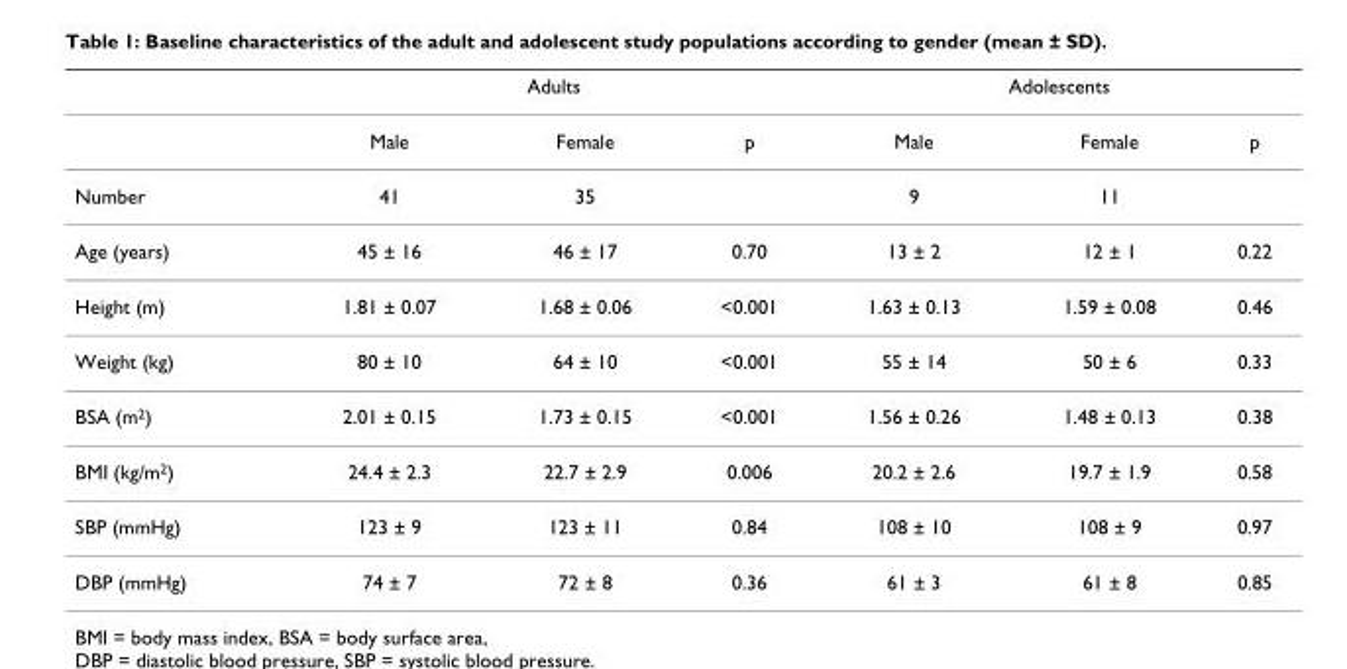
<table><thead><tr><td rowspan="2"></td><td colspan="3">Adults</td><td colspan="3">Adolescents</td></tr><tr><td>Male</td><td>Female</td><td>p</td><td>Male</td><td>Female</td><td>p</td></tr></thead><tbody><tr><td>Number</td><td>41</td><td>35</td><td></td><td>9</td><td>11</td><td></td></tr><tr><td>Age (years)</td><td>45 ± 16</td><td>46 ± 17</td><td>0.70</td><td>13 ± 2</td><td>12 ± 1</td><td>0.22</td></tr><tr><td>Height (m)</td><td>1.81 ± 0.07</td><td>1.68 ± 0.06</td><td>&lt;0.001</td><td>1.63 ± 0.13</td><td>1.59 ± 0.08</td><td>0.46</td></tr><tr><td>Weight (kg)</td><td>80 ± 10</td><td>64 ± 10</td><td>&lt;0.001</td><td>55 ± 14</td><td>50 ± 6</td><td>0.33</td></tr><tr><td>BSA (m<sup>2</sup>)</td><td>2.01 ± 0.15</td><td>1.73 ± 0.15</td><td>&lt;0.001</td><td>1.56 ± 0.26</td><td>1.48 ± 0.13</td><td>0.38</td></tr><tr><td>BMI (kg/m<sup>2</sup>)</td><td>24.4 ± 2.3</td><td>22.7 ± 2.9</td><td>0.006</td><td>20.2 ± 2.6</td><td>19.7 ± 1.9</td><td>0.58</td></tr><tr><td>SBP (mmHg)</td><td>123 ± 9</td><td>123 ± 11</td><td>0.84</td><td>108 ± 10</td><td>108 ± 9</td><td>0.97</td></tr><tr><td>DBP (mmHg)</td><td>74 ± 7</td><td>72 ± 8</td><td>0.36</td><td>61 ± 3</td><td>61 ± 8</td><td>0.85</td></tr></tbody></table>